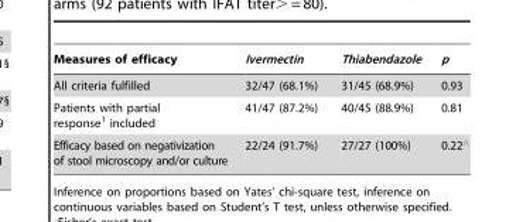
<table><thead><tr><td>Measures of efficacy</td><td>Ivermectin</td><td>Thiabendazole</td><td>p</td></tr></thead><tbody><tr><td>All criteria fulfilled</td><td>32/47 (68.1%)</td><td>31/45 (68.9%)</td><td>0.93</td></tr><tr><td>Patients with partial response<sup>1</sup> included</td><td>41/47 (87.2%)</td><td>40/45 (88.9%)</td><td>0.81</td></tr><tr><td>Efficacy based on negativization of stool microscopy and/or culture</td><td>22/24 (91.7%)</td><td>27/27 (100%)</td><td>0.22‘</td></tr></tbody></table>